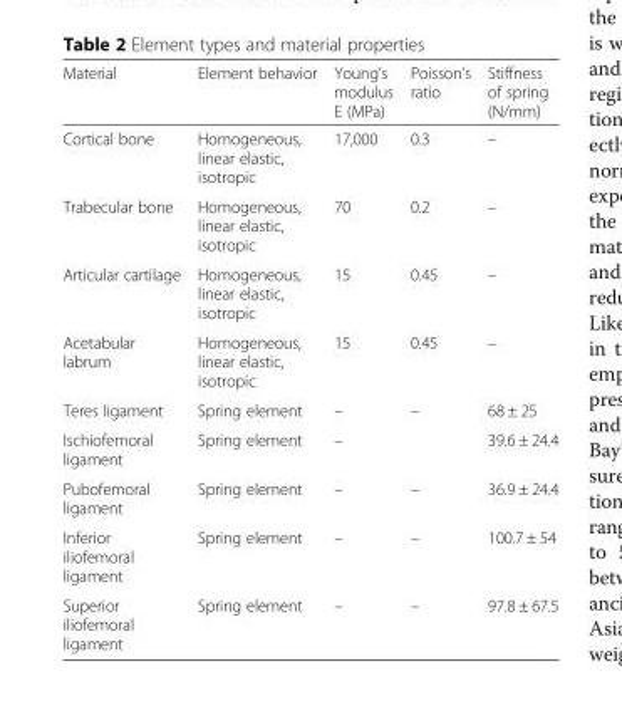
<table><thead><tr><td>Material</td><td>Element behavior</td><td>Young’s modulus E (MPa)</td><td>Poisson’s ratio</td><td>Stiffness of spring (N/mm)</td></tr></thead><tbody><tr><td>Cortical bone</td><td>Homogeneous, linear elastic, isotropic</td><td>17,000</td><td>0.3</td><td>–</td></tr><tr><td>Trabecular bone</td><td>Homogeneous, linear elastic, isotropic</td><td>70</td><td>0.2</td><td>–</td></tr><tr><td>Articular cartilage</td><td>Homogeneous, linear elastic, isotropic</td><td>15</td><td>0.45</td><td>–</td></tr><tr><td>Acetabular labrum</td><td>Homogeneous, linear elastic, isotropic</td><td>15</td><td>0.45</td><td>–</td></tr><tr><td>Teres ligament</td><td>Spring element</td><td>–</td><td>–</td><td>68 ± 25</td></tr><tr><td>Ischiofemoral ligament</td><td>Spring element</td><td>–</td><td></td><td>39.6 ± 24.4</td></tr><tr><td>Pubofemoral ligament</td><td>Spring element</td><td>–</td><td>–</td><td>36.9 ± 24.4</td></tr><tr><td>Inferior iliofemoral ligament</td><td>Spring element</td><td>–</td><td>–</td><td>100.7 ± 54</td></tr><tr><td>Superior iliofemoral ligament</td><td>Spring element</td><td>–</td><td>–</td><td>97.8 ± 67.5</td></tr></tbody></table>